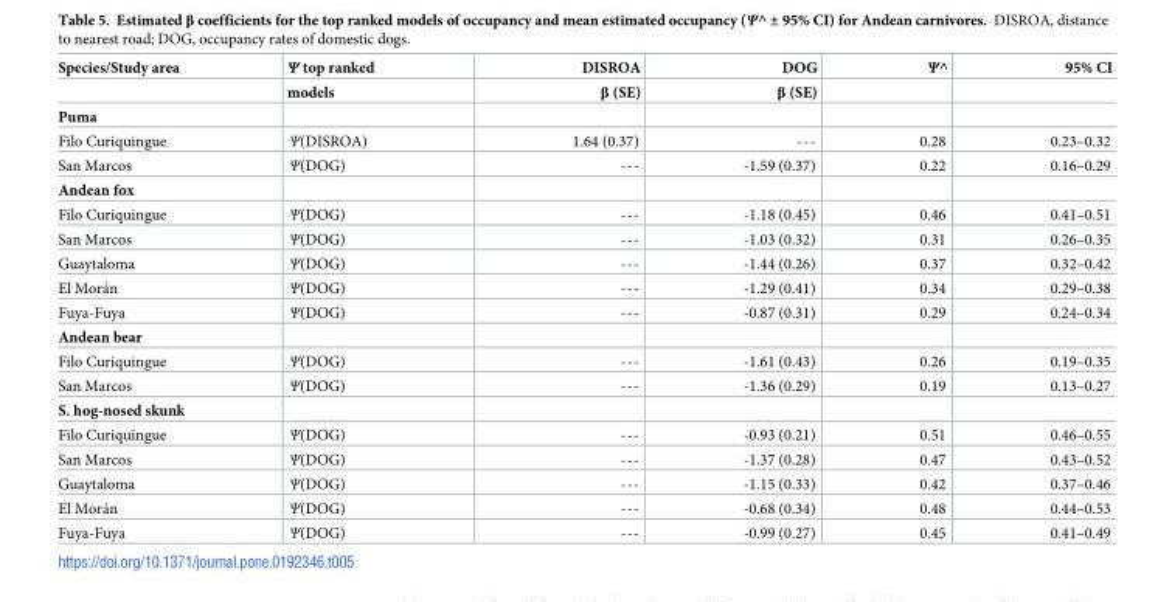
<table><thead><tr><td rowspan="2">Species/Study area</td><td rowspan="2">Ψ top ranked models</td><td rowspan="2">DISROA β (SE)</td><td rowspan="2">DOG β (SE)</td><td rowspan="2">Ψ^</td><td rowspan="2">95% CI</td></tr><tr></tr></thead><tbody><tr><td colspan="6">Puma</td></tr><tr><td>Filo Curiquingue</td><td>Ψ(DISROA)</td><td>1.64 (0.37)</td><td>---</td><td>0.28</td><td>0.23–0.32</td></tr><tr><td>San Marcos</td><td>Ψ(DOG)</td><td>---</td><td>-1.59 (0.37)</td><td>0.22</td><td>0.16–0.29</td></tr><tr><td colspan="6">Andean fox</td></tr><tr><td>Filo Curiquingue</td><td>Ψ(DOG)</td><td>---</td><td>-1.18 (0.45)</td><td>0.46</td><td>0.41–0.51</td></tr><tr><td>San Marcos</td><td>Ψ(DOG)</td><td>---</td><td>-1.03 (0.32)</td><td>0.31</td><td>0.26–0.35</td></tr><tr><td>Guaytaloma</td><td>Ψ(DOG)</td><td>---</td><td>-1.44 (0.26)</td><td>0.37</td><td>0.32–0.42</td></tr><tr><td>El Mora´n</td><td>Ψ(DOG)</td><td>---</td><td>-1.29 (0.41)</td><td>0.34</td><td>0.29–0.38</td></tr><tr><td>Fuya-Fuya</td><td>Ψ(DOG)</td><td>---</td><td>-0.87 (0.31)</td><td>0.29</td><td>0.24–0.34</td></tr><tr><td colspan="6">Andean bear</td></tr><tr><td>Filo Curiquingue</td><td>Ψ(DOG)</td><td>---</td><td>-1.61 (0.43)</td><td>0.26</td><td>0.19–0.35</td></tr><tr><td>San Marcos</td><td>Ψ(DOG)</td><td>---</td><td>-1.36 (0.29)</td><td>0.19</td><td>0.13–0.27</td></tr><tr><td colspan="6">S. hog-nosed skunk</td></tr><tr><td>Filo Curiquingue</td><td>Ψ(DOG)</td><td>---</td><td>-0.93 (0.21)</td><td>0.51</td><td>0.46–0.55</td></tr><tr><td>San Marcos</td><td>Ψ(DOG)</td><td>---</td><td>-1.37 (0.28)</td><td>0.47</td><td>0.43–0.52</td></tr><tr><td>Guaytaloma</td><td>Ψ(DOG)</td><td>---</td><td>-1.15 (0.33)</td><td>0.42</td><td>0.37–0.46</td></tr><tr><td>El Mora´n</td><td>Ψ(DOG)</td><td>---</td><td>-0.68 (0.34)</td><td>0.48</td><td>0.44–0.53</td></tr><tr><td>Fuya-Fuya</td><td>Ψ(DOG)</td><td>---</td><td>-0.99 (0.27)</td><td>0.45</td><td>0.41–0.49</td></tr></tbody></table>